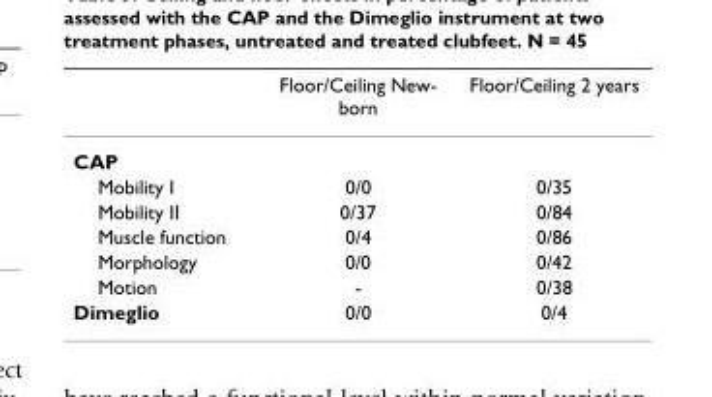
<table><thead><tr><td></td><td>Floor/Ceiling New- born</td><td>Floor/Ceiling 2 years</td></tr></thead><tbody><tr><td colspan="3">CAP</td></tr><tr><td>Mobility I</td><td>0/0</td><td>0/35</td></tr><tr><td>Mobility II</td><td>0/37</td><td>0/84</td></tr><tr><td>Muscle function</td><td>0/4</td><td>0/86</td></tr><tr><td>Morphology</td><td>0/0</td><td>0/42</td></tr><tr><td>Motion</td><td>-</td><td>0/38</td></tr><tr><td>Dimeglio</td><td>0/0</td><td>0/4</td></tr></tbody></table>